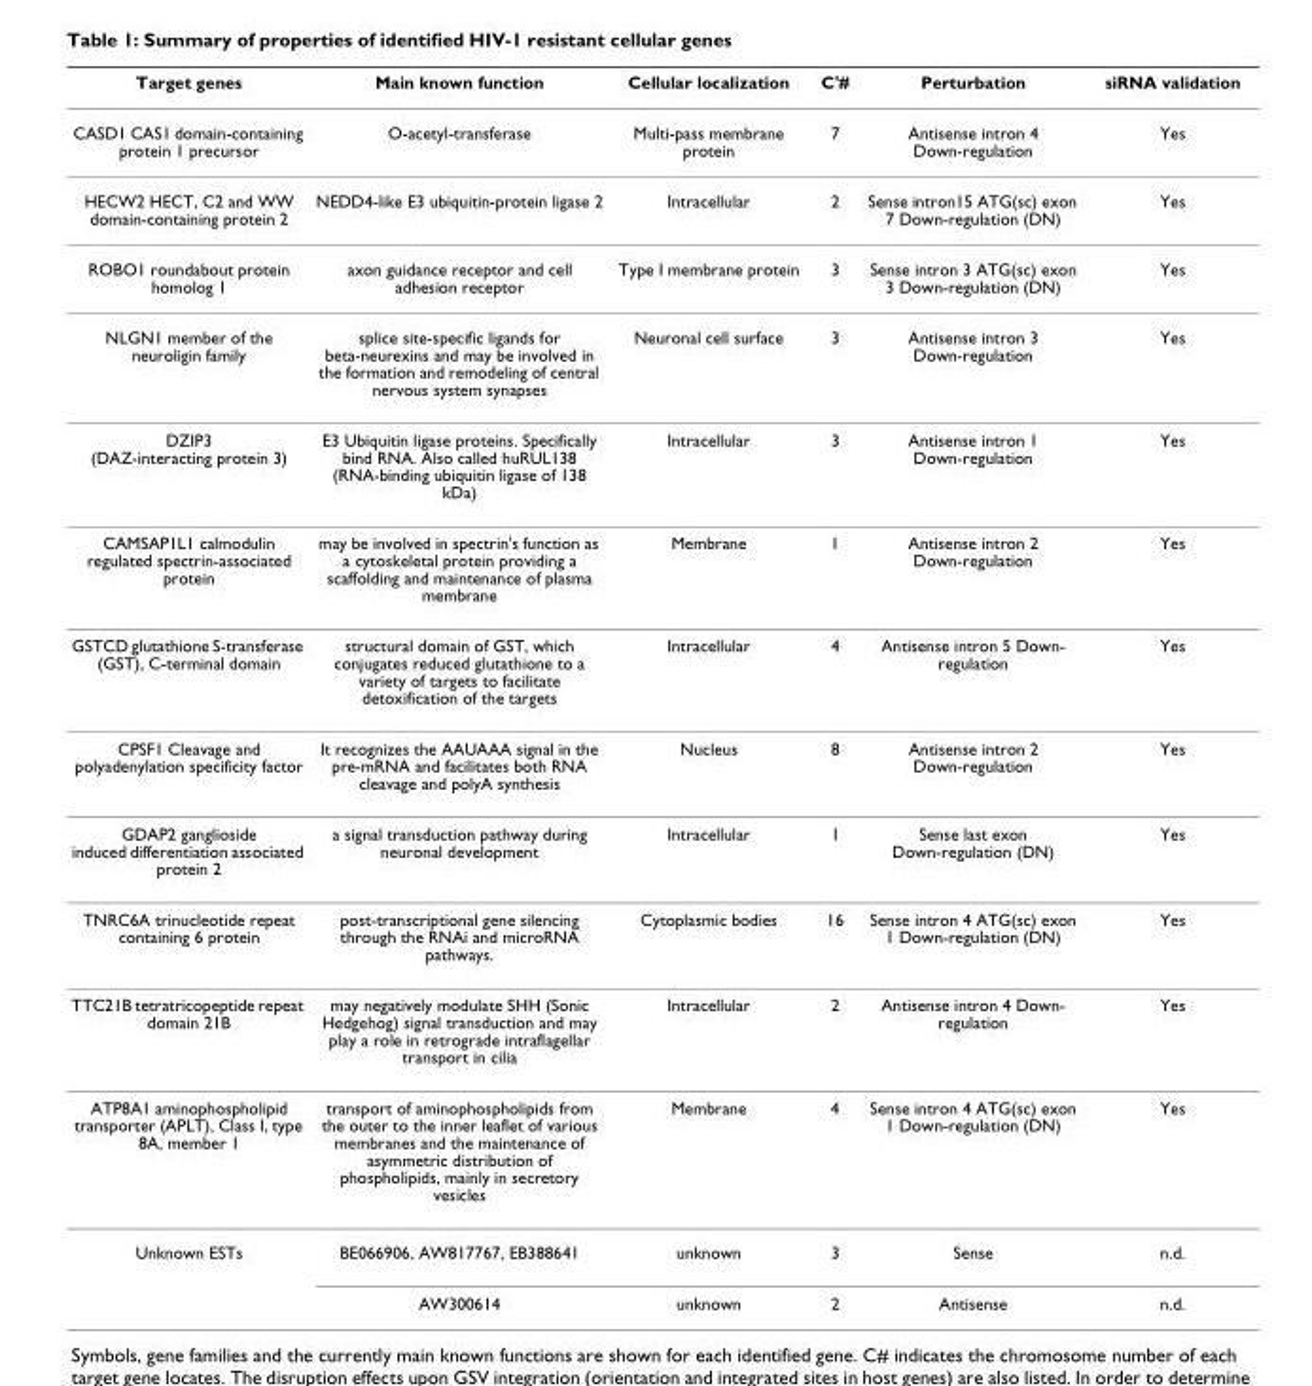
<table><thead><tr><td>Target genes</td><td>Main known function</td><td>Cellular localization</td><td>C&#x27;#</td><td>Perturbation</td><td>siRNA validation</td></tr></thead><tbody><tr><td>CASD1 CAS1 domain-containing protein 1 precursor</td><td>O-acetyl-transferase</td><td>Multi-pass membrane protein</td><td>7</td><td>Antisense intron 4 Down-regulation</td><td>Yes</td></tr><tr><td>HECW2 HECT, C2 and WW domain-containing protein 2</td><td>NEDD4-like E3 ubiquitin-protein ligase 2</td><td>Intracellular</td><td>2</td><td>Sense intron15 ATG(sc) exon 7 Down-regulation (DN)</td><td>Yes</td></tr><tr><td>ROBO1 roundabout protein homolog 1</td><td>axon guidance receptor and cell adhesion receptor</td><td>Type I membrane protein</td><td>3</td><td>Sense intron 3 ATG(sc) exon 3 Down-regulation (DN)</td><td>Yes</td></tr><tr><td>NLGN1 member of the neuroligin family</td><td>splice site-specific ligands for beta-neurexins and may be involved in the formation and remodeling of central nervous system synapses</td><td>Neuronal cell surface</td><td>3</td><td>Antisense intron 3 Down-regulation</td><td>Yes</td></tr><tr><td>DZIP3 (DAZ-interacting protein 3)</td><td>E3 Ubiquitin ligase proteins. Specifically bind RNA. Also called huRUL138 (RNA-binding ubiquitin ligase of 138 kDa)</td><td>Intracellular</td><td>3</td><td>Antisense intron 1 Down-regulation</td><td>Yes</td></tr><tr><td>CAMSAP1L1 calmodulin regulated spectrin-associated protein</td><td>may be involved in spectrin&#x27;s function as a cytoskeletal protein providing a scaffolding and maintenance of plasma membrane</td><td>Membrane</td><td>1</td><td>Antisense intron 2 Down-regulation</td><td>Yes</td></tr><tr><td>GSTCD glutathione S-transferase (GST), C-terminal domain</td><td>structural domain of GST, which conjugates reduced glutathione to a variety of targets to facilitate detoxification of the targets</td><td>Intracellular</td><td>4</td><td>Antisense intron 5 Down- regulation</td><td>Yes</td></tr><tr><td>CPSF1 Cleavage and polyadenylation specificity factor</td><td>It recognizes the AAUAAA signal in the pre-mRNA and facilitates both RNA cleavage and polyA synthesis</td><td>Nucleus</td><td>8</td><td>Antisense intron 2 Down-regulation</td><td>Yes</td></tr><tr><td>GDAP2 ganglioside induced differentiation associated protein 2</td><td>a signal transduction pathway during neuronal development</td><td>Intracellular</td><td>1</td><td>Sense last exon Down-regulation (DN)</td><td>Yes</td></tr><tr><td>TNRC6A trinucleotide repeat containing 6 protein</td><td>post-transcriptional gene silencing through the RNAi and microRNA pathways.</td><td>Cytoplasmic bodies</td><td>16</td><td>Sense intron 4 ATG(sc) exon 1 Down-regulation (DN)</td><td>Yes</td></tr><tr><td>TTC21B tetratricopeptide repeat domain 21B</td><td>may negatively modulate SHH (Sonic Hedgehog) signal transduction and may play a role in retrograde intraflagellar transport in cilia</td><td>Intracellular</td><td>2</td><td>Antisense intron 4 Down- regulation</td><td>Yes</td></tr><tr><td>ATP8A1 aminophospholipid transporter (APLT), Class I, type 8A, member 1</td><td>transport of aminophospholipids from the outer to the inner leaflet of various membranes and the maintenance of asymmetric distribution of phospholipids, mainly in secretory vesicles</td><td>Membrane</td><td>4</td><td>Sense intron 4 ATG(sc) exon 1 Down-regulation (DN)</td><td>Yes</td></tr><tr><td rowspan="2">Unknown ESTs</td><td>BE066906, AW817767, EB388641</td><td>unknown</td><td>3</td><td>Sense</td><td>n.d.</td></tr><tr><td>AW300614</td><td>unknown</td><td>2</td><td>Antisense</td><td>n.d.</td></tr></tbody></table>